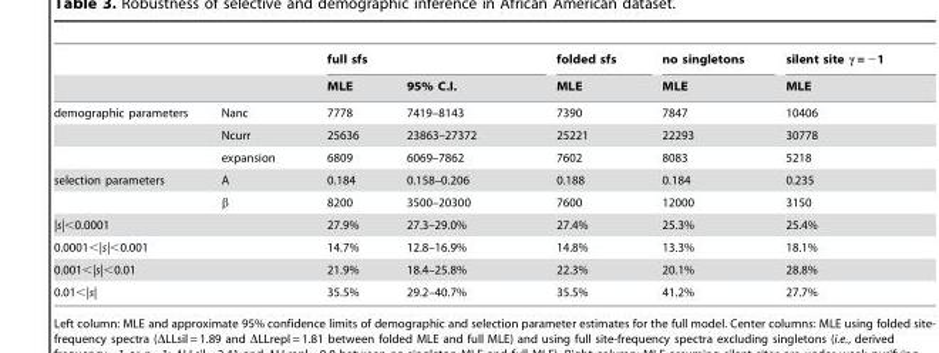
<table><thead><tr><td rowspan="2"></td><td rowspan="2"></td><td colspan="2">full sfs</td><td rowspan="2">folded sfs MLE</td><td rowspan="2">no singletons MLE</td><td rowspan="2">silent site γ = −1 MLE</td></tr><tr><td>MLE</td><td>95% C.I.</td></tr></thead><tbody><tr><td rowspan="3">demographic parameters</td><td>Nanc</td><td>7778</td><td>7419–8143</td><td>7390</td><td>7847</td><td>10406</td></tr><tr><td>Ncurr</td><td>25636</td><td>23863–27372</td><td>25221</td><td>22293</td><td>30778</td></tr><tr><td>expansion</td><td>6809</td><td>6069–7862</td><td>7602</td><td>8083</td><td>5218</td></tr><tr><td rowspan="2">selection parameters</td><td>A</td><td>0.184</td><td>0.158–0.206</td><td>0.188</td><td>0.184</td><td>0.235</td></tr><tr><td>β</td><td>8200</td><td>3500–20300</td><td>7600</td><td>12000</td><td>3150</td></tr><tr><td colspan="2">|s|&lt;0.0001</td><td>27.9%</td><td>27.3–29.0%</td><td>27.4%</td><td>25.3%</td><td>25.4%</td></tr><tr><td colspan="2">0.0001&lt;|s|&lt;0.001</td><td>14.7%</td><td>12.8–16.9%</td><td>14.8%</td><td>13.3%</td><td>18.1%</td></tr><tr><td colspan="2">0.001&lt;|s|&lt;0.01</td><td>21.9%</td><td>18.4–25.8%</td><td>22.3%</td><td>20.1%</td><td>28.8%</td></tr><tr><td colspan="2">0.01&lt;|s|</td><td>35.5%</td><td>29.2–40.7%</td><td>35.5%</td><td>41.2%</td><td>27.7%</td></tr></tbody></table>